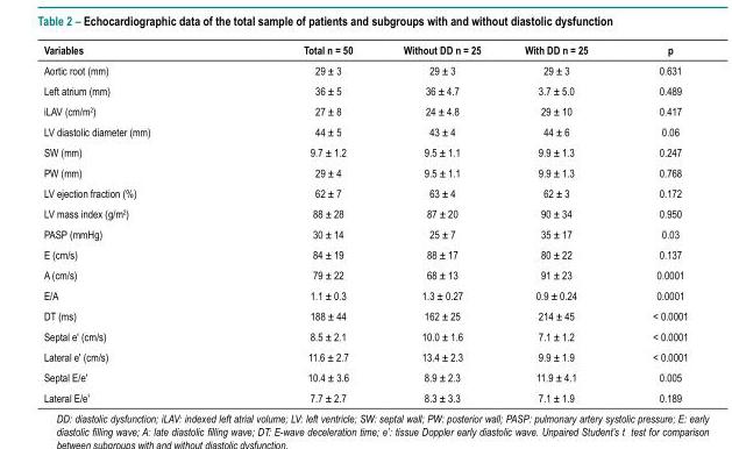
<table><thead><tr><td>Variables</td><td>Total n = 50</td><td>Without DD n = 25</td><td>With DD n = 25</td><td>p</td></tr></thead><tbody><tr><td>Aortic root (mm)</td><td>29 ± 3</td><td>29 ± 3</td><td>29 ± 3</td><td>0.631</td></tr><tr><td>Left atrium (mm)</td><td>36 ± 5</td><td>36 ± 4.7</td><td>3.7 ± 5.0</td><td>0.489</td></tr><tr><td>iLAV (cm/m<sup>2</sup>)</td><td>27 ± 8</td><td>24 ± 4.8</td><td>29 ± 10</td><td>0.417</td></tr><tr><td>LV diastolic diameter (mm)</td><td>44 ± 5</td><td>43 ± 4</td><td>44 ± 6</td><td>0.06</td></tr><tr><td>SW (mm)</td><td>9.7 ± 1.2</td><td>9.5 ± 1.1</td><td>9.9 ± 1.3</td><td>0.247</td></tr><tr><td>PW (mm)</td><td>29 ± 4</td><td>9.5 ± 1.1</td><td>9.9 ± 1.3</td><td>0.768</td></tr><tr><td>LV ejection fraction (%)</td><td>62 ± 7</td><td>63 ± 4</td><td>62 ± 3</td><td>0.172</td></tr><tr><td>LV mass index (g/m<sup>2</sup>)</td><td>88 ± 28</td><td>87 ± 20</td><td>90 ± 34</td><td>0.950</td></tr><tr><td>PASP (mmHg)</td><td>30 ± 14</td><td>25 ± 7</td><td>35 ± 17</td><td>0.03</td></tr><tr><td>E (cm/s)</td><td>84 ± 19</td><td>88 ± 17</td><td>80 ± 22</td><td>0.137</td></tr><tr><td>A (cm/s)</td><td>79 ± 22</td><td>68 ± 13</td><td>91 ± 23</td><td>0.0001</td></tr><tr><td>E/A</td><td>1.1 ± 0.3</td><td>1.3 ± 0.27</td><td>0.9 ± 0.24</td><td>0.0001</td></tr><tr><td>DT (ms)</td><td>188 ± 44</td><td>162 ± 25</td><td>214 ± 45</td><td>&lt; 0.0001</td></tr><tr><td>Septal e&#x27; (cm/s)</td><td>8.5 ± 2.1</td><td>10.0 ± 1.6</td><td>7.1 ± 1.2</td><td>&lt; 0.0001</td></tr><tr><td>Lateral e&#x27; (cm/s)</td><td>11.6 ± 2.7</td><td>13.4 ± 2.3</td><td>9.9 ± 1.9</td><td>&lt; 0.0001</td></tr><tr><td>Septal E/e&#x27;</td><td>10.4 ± 3.6</td><td>8.9 ± 2.3</td><td>11.9 ± 4.1</td><td>0.005</td></tr><tr><td>Lateral E/e&#x27;</td><td>7.7 ± 2.7</td><td>8.3 ± 3.3</td><td>7.1 ± 1.9</td><td>0.189</td></tr></tbody></table>